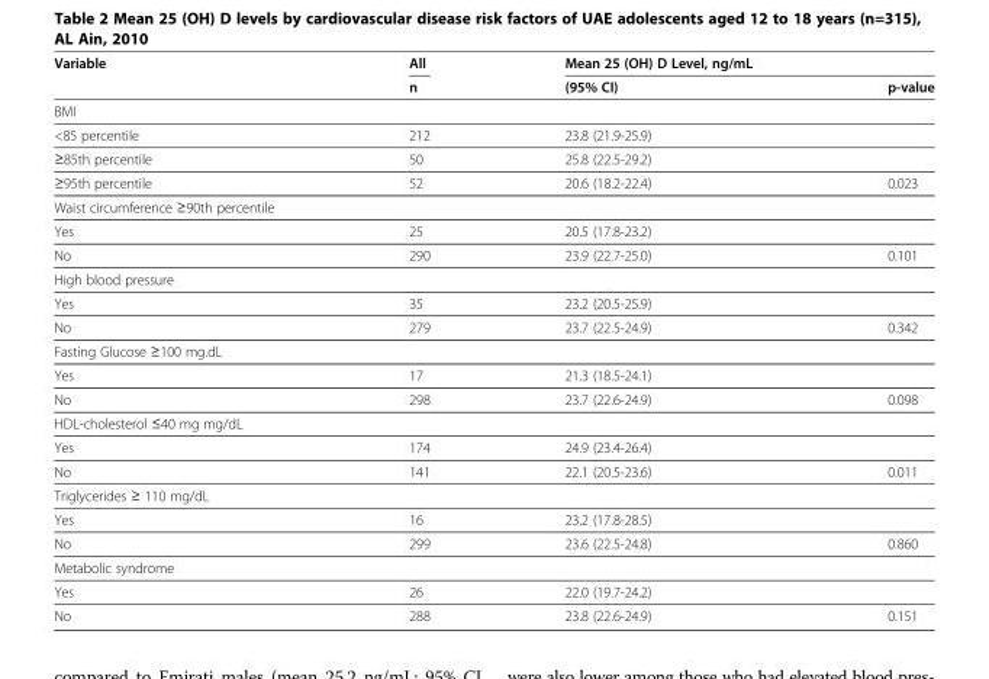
<table><thead><tr><td rowspan="2">Variable</td><td rowspan="2">All n</td><td rowspan="2">Mean 25 (OH) D Level, ng/mL (95% CI)</td><td rowspan="2">p-value</td></tr><tr></tr></thead><tbody><tr><td colspan="4">BMI</td></tr><tr><td>&lt;85 percentile</td><td>212</td><td>23.8 (21.9-25.9)</td><td></td></tr><tr><td>≥85th percentile</td><td>50</td><td>25.8 (22.5-29.2)</td><td></td></tr><tr><td>≥95th percentile</td><td>52</td><td>20.6 (18.2-22.4)</td><td>0.023</td></tr><tr><td colspan="4">Waist circumference ≥90th percentile</td></tr><tr><td>Yes</td><td>25</td><td>20.5 (17.8-23.2)</td><td></td></tr><tr><td>No</td><td>290</td><td>23.9 (22.7-25.0)</td><td>0.101</td></tr><tr><td colspan="4">High blood pressure</td></tr><tr><td>Yes</td><td>35</td><td>23.2 (20.5-25.9)</td><td></td></tr><tr><td>No</td><td>279</td><td>23.7 (22.5-24.9)</td><td>0.342</td></tr><tr><td colspan="4">Fasting Glucose ≥100 mg.dL</td></tr><tr><td>Yes</td><td>17</td><td>21.3 (18.5-24.1)</td><td></td></tr><tr><td>No</td><td>298</td><td>23.7 (22.6-24.9)</td><td>0.098</td></tr><tr><td colspan="4">HDL-cholesterol ≤40 mg mg/dL</td></tr><tr><td>Yes</td><td>174</td><td>24.9 (23.4-26.4)</td><td></td></tr><tr><td>No</td><td>141</td><td>22.1 (20.5-23.6)</td><td>0.011</td></tr><tr><td colspan="4">Triglycerides ≥ 110 mg/dL</td></tr><tr><td>Yes</td><td>16</td><td>23.2 (17.8-28.5)</td><td></td></tr><tr><td>No</td><td>299</td><td>23.6 (22.5-24.8)</td><td>0.860</td></tr><tr><td colspan="4">Metabolic syndrome</td></tr><tr><td>Yes</td><td>26</td><td>22.0 (19.7-24.2)</td><td></td></tr><tr><td>No</td><td>288</td><td>23.8 (22.6-24.9)</td><td>0.151</td></tr></tbody></table>